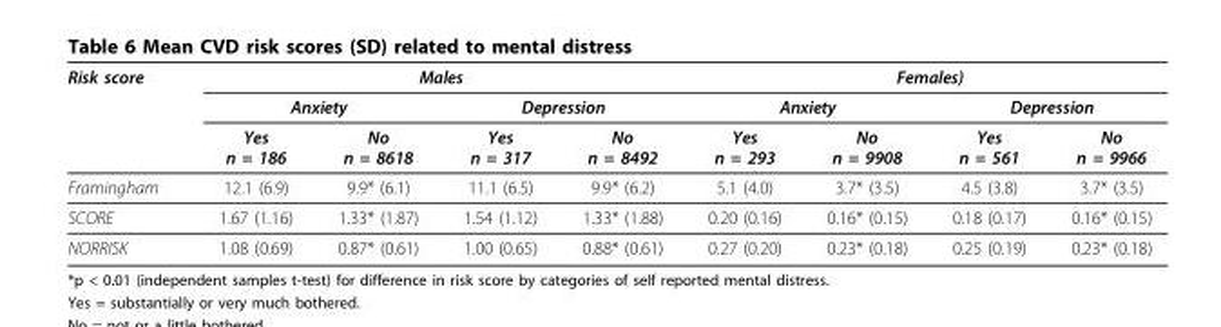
<table><thead><tr><td rowspan="3">Risk score</td><td colspan="4">Males</td><td colspan="4">Females)</td></tr><tr><td colspan="2">Anxiety</td><td colspan="2">Depression</td><td colspan="2">Anxiety</td><td colspan="2">Depression</td></tr><tr><td>Yes n = 186</td><td>No n = 8618</td><td>Yes n = 317</td><td>No n = 8492</td><td>Yes n = 293</td><td>No n = 9908</td><td>Yes n = 561</td><td>No n = 9966</td></tr></thead><tbody><tr><td>Framingham</td><td>12.1 (6.9)</td><td>9.9* (6.1)</td><td>11.1 (6.5)</td><td>9.9* (6.2)</td><td>5.1 (4.0)</td><td>3.7* (3.5)</td><td>4.5 (3.8)</td><td>3.7* (3.5)</td></tr><tr><td>SCORE</td><td>1.67 (1.16)</td><td>1.33* (1.87)</td><td>1.54 (1.12)</td><td>1.33* (1.88)</td><td>0.20 (0.16)</td><td>0.16* (0.15)</td><td>0.18 (0.17)</td><td>0.16* (0.15)</td></tr><tr><td>NORRISK</td><td>1.08 (0.69)</td><td>0.87* (0.61)</td><td>1.00 (0.65)</td><td>0.88* (0.61)</td><td>0.27 (0.20)</td><td>0.23* (0.18)</td><td>0.25 (0.19)</td><td>0.23* (0.18)</td></tr></tbody></table>